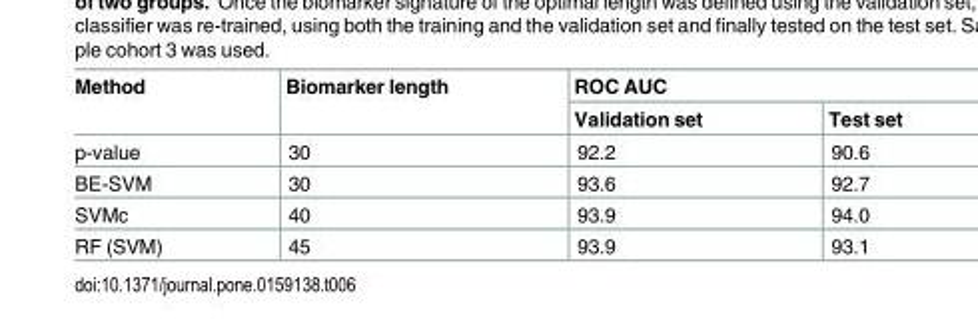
<table><thead><tr><td rowspan="2">Method</td><td rowspan="2">Biomarker length</td><td colspan="2">ROC AUC</td></tr><tr><td>Validation set</td><td>Test set</td></tr></thead><tbody><tr><td>p-value</td><td>30</td><td>92.2</td><td>90.6</td></tr><tr><td>BE-SVM</td><td>30</td><td>93.6</td><td>92.7</td></tr><tr><td>SVMc</td><td>40</td><td>93.9</td><td>94.0</td></tr><tr><td>RF (SVM)</td><td>45</td><td>93.9</td><td>93.1</td></tr></tbody></table>